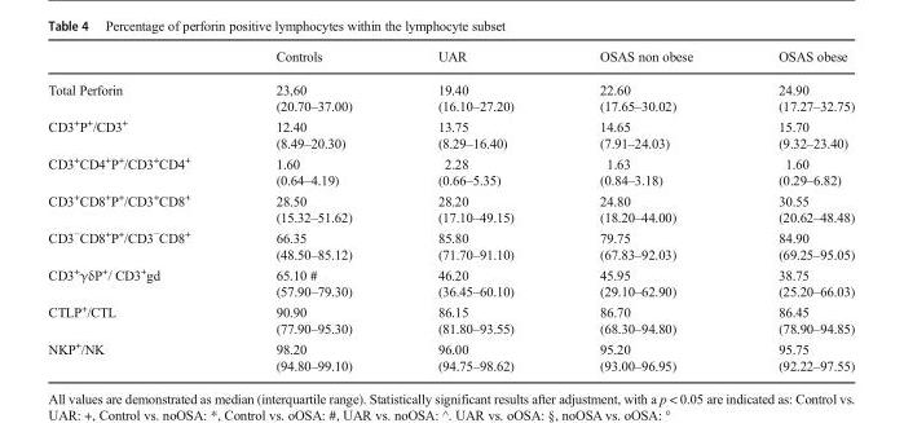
<table><thead><tr><td></td><td>Controls</td><td>UAR</td><td>OSAS non obese</td><td>OSAS obese</td></tr></thead><tbody><tr><td>Total Perforin</td><td>23,60 (20.70–37.00)</td><td>19.40 (16.10–27.20)</td><td>22.60 (17.65–30.02)</td><td>24.90 (17.27–32.75)</td></tr><tr><td>CD3<sup>+</sup>P<sup>+</sup>/CD3<sup>+</sup></td><td>12.40 (8.49–20.30)</td><td>13.75 (8.29–16.40)</td><td>14.65 (7.91–24.03)</td><td>15.70 (9.32–23.40)</td></tr><tr><td>CD3<sup>+</sup>CD4<sup>+</sup>P<sup>+</sup>/CD3<sup>+</sup>CD4<sup>+</sup></td><td>1.60 (0.64–4.19)</td><td>2.28 (0.66–5.35)</td><td>1.63 (0.84–3.18)</td><td>1.60 (0.29–6.82)</td></tr><tr><td>CD3<sup>+</sup>CD8<sup>+</sup>P<sup>+</sup>/CD3<sup>+</sup>CD8<sup>+</sup></td><td>28.50 (15.32–51.62)</td><td>28.20 (17.10–49.15)</td><td>24.80 (18.20–44.00)</td><td>30.55 (20.62–48.48)</td></tr><tr><td>CD3<sup>−</sup>CD8<sup>+</sup>P<sup>+</sup>/CD3<sup>−</sup>CD8<sup>+</sup></td><td>66.35 (48.50–85.12)</td><td>85.80 (71.70–91.10)</td><td>79.75 (67.83–92.03)</td><td>84.90 (69.25–95.05)</td></tr><tr><td>CD3<sup>+</sup>γδP<sup>+</sup>/ CD3<sup>+</sup>gd</td><td>65.10 # (57.90–79.30)</td><td>46.20 (36.45–60.10)</td><td>45.95 (29.10–62.90)</td><td>38.75 (25.20–66.03)</td></tr><tr><td>CTLP<sup>+</sup>/CTL</td><td>90.90 (77.90–95.30)</td><td>86.15 (81.80–93.55)</td><td>86.70 (68.30–94.80)</td><td>86.45 (78.90–94.85)</td></tr><tr><td>NKP<sup>+</sup>/NK</td><td>98.20 (94.80–99.10)</td><td>96.00 (94.75–98.62)</td><td>95.20 (93.00–96.95)</td><td>95.75 (92.22–97.55)</td></tr></tbody></table>